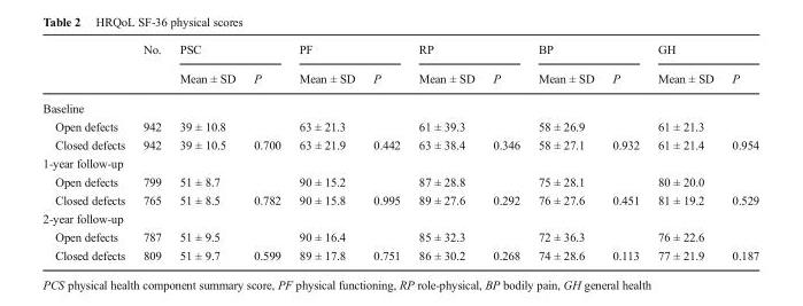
<table><thead><tr><td rowspan="2"></td><td rowspan="2">No.</td><td colspan="2">PSC</td><td colspan="2">PF</td><td colspan="2">RP</td><td colspan="2">BP</td><td colspan="2">GH</td></tr><tr><td>Mean ± SD</td><td>P</td><td>Mean ± SD</td><td>P</td><td>Mean ± SD</td><td>P</td><td>Mean ± SD</td><td>P</td><td>Mean ± SD</td><td>P</td></tr></thead><tbody><tr><td colspan="12">Baseline</td></tr><tr><td>Open defects</td><td>942</td><td>39 ± 10.8</td><td></td><td>63 ± 21.3</td><td></td><td>61 ± 39.3</td><td></td><td>58 ± 26.9</td><td></td><td>61 ± 21.3</td><td></td></tr><tr><td>Closed defects</td><td>942</td><td>39 ± 10.5</td><td>0.700</td><td>63 ± 21.9</td><td>0.442</td><td>63 ± 38.4</td><td>0.346</td><td>58 ± 27.1</td><td>0.932</td><td>61 ± 21.4</td><td>0.954</td></tr><tr><td colspan="12">1-year follow-up</td></tr><tr><td>Open defects</td><td>799</td><td>51 ± 8.7</td><td></td><td>90 ± 15.2</td><td></td><td>87 ± 28.8</td><td></td><td>75 ± 28.1</td><td></td><td>80 ± 20.0</td><td></td></tr><tr><td>Closed defects</td><td>765</td><td>51 ± 8.5</td><td>0.782</td><td>90 ± 15.8</td><td>0.995</td><td>89 ± 27.6</td><td>0.292</td><td>76 ± 27.6</td><td>0.451</td><td>81 ± 19.2</td><td>0.529</td></tr><tr><td colspan="12">2-year follow-up</td></tr><tr><td>Open defects</td><td>787</td><td>51 ± 9.5</td><td></td><td>90 ± 16.4</td><td></td><td>85 ± 32.3</td><td></td><td>72 ± 36.3</td><td></td><td>76 ± 22.6</td><td></td></tr><tr><td>Closed defects</td><td>809</td><td>51 ± 9.7</td><td>0.599</td><td>89 ± 17.8</td><td>0.751</td><td>86 ± 30.2</td><td>0.268</td><td>74 ± 28.6</td><td>0.113</td><td>77 ± 21.9</td><td>0.187</td></tr></tbody></table>